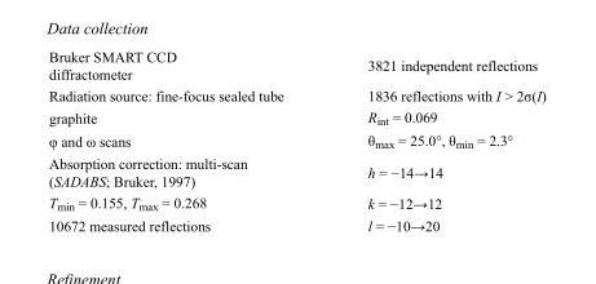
<table><tbody><tr><td>Bruker SMART CCD diffractometer</td><td>3821 independent reflections</td></tr><tr><td>Radiation source: fine-focus sealed tube</td><td>1836 reflections with I &gt; 2σ(I)</td></tr><tr><td>graphite</td><td>R<sub>int</sub> = 0.069</td></tr><tr><td>φ and ω scans</td><td>θ<sub>max</sub> = 25.0°, θ<sub>min</sub> = 2.3°</td></tr><tr><td>Absorption correction: multi-scan (SADABS; Bruker, 1997)</td><td>h = −14→14</td></tr><tr><td>T<sub>min</sub> = 0.155, T<sub>max</sub> = 0.268</td><td>k = −12→12</td></tr><tr><td>10672 measured reflections</td><td>l = −10→20</td></tr></tbody></table>